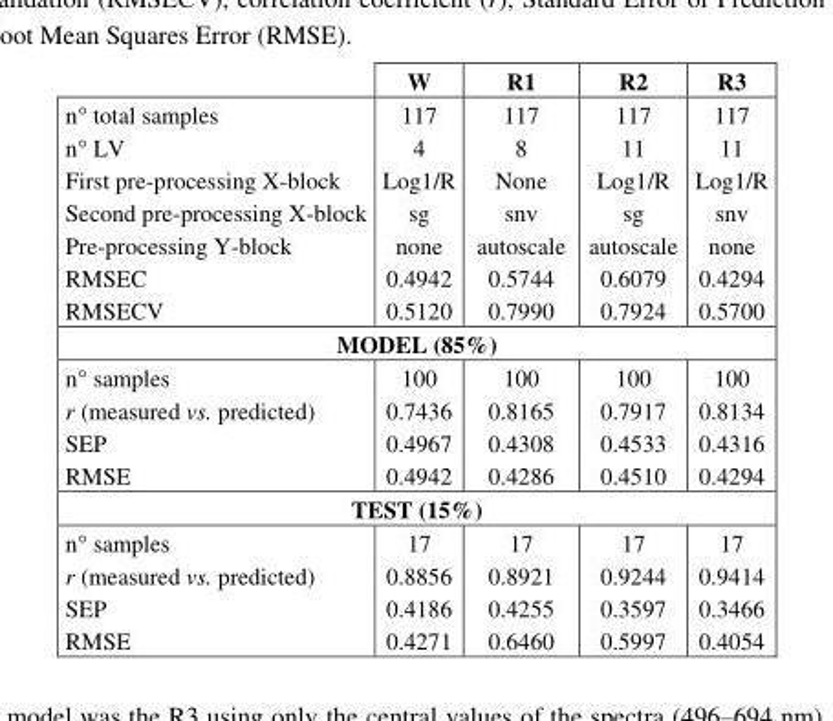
<table><thead><tr><td></td><td>W</td><td>R1</td><td>R2</td><td>R3</td></tr></thead><tbody><tr><td>n° total samples</td><td>117</td><td>117</td><td>117</td><td>117</td></tr><tr><td>n° LV</td><td>4</td><td>8</td><td>11</td><td>11</td></tr><tr><td>First pre-processing X-block</td><td>Log1/R</td><td>None</td><td>Log1/R</td><td>Log1/R</td></tr><tr><td>Second pre-processing X-block</td><td>sg</td><td>snv</td><td>sg</td><td>snv</td></tr><tr><td>Pre-processing Y-block</td><td>none</td><td>autoscale</td><td>autoscale</td><td>none</td></tr><tr><td>RMSEC</td><td>0.4942</td><td>0.5744</td><td>0.6079</td><td>0.4294</td></tr><tr><td>RMSECV</td><td>0.5120</td><td>0.7990</td><td>0.7924</td><td>0.5700</td></tr><tr><td colspan="5">MODEL (85%)</td></tr><tr><td>n° samples</td><td>100</td><td>100</td><td>100</td><td>100</td></tr><tr><td>r (measured vs. predicted)</td><td>0.7436</td><td>0.8165</td><td>0.7917</td><td>0.8134</td></tr><tr><td>SEP</td><td>0.4967</td><td>0.4308</td><td>0.4533</td><td>0.4316</td></tr><tr><td>RMSE</td><td>0.4942</td><td>0.4286</td><td>0.4510</td><td>0.4294</td></tr><tr><td colspan="5">TEST (15%)</td></tr><tr><td>n° samples</td><td>17</td><td>17</td><td>17</td><td>17</td></tr><tr><td>r (measured vs. predicted)</td><td>0.8856</td><td>0.8921</td><td>0.9244</td><td>0.9414</td></tr><tr><td>SEP</td><td>0.4186</td><td>0.4255</td><td>0.3597</td><td>0.3466</td></tr><tr><td>RMSE</td><td>0.4271</td><td>0.6460</td><td>0.5997</td><td>0.4054</td></tr></tbody></table>